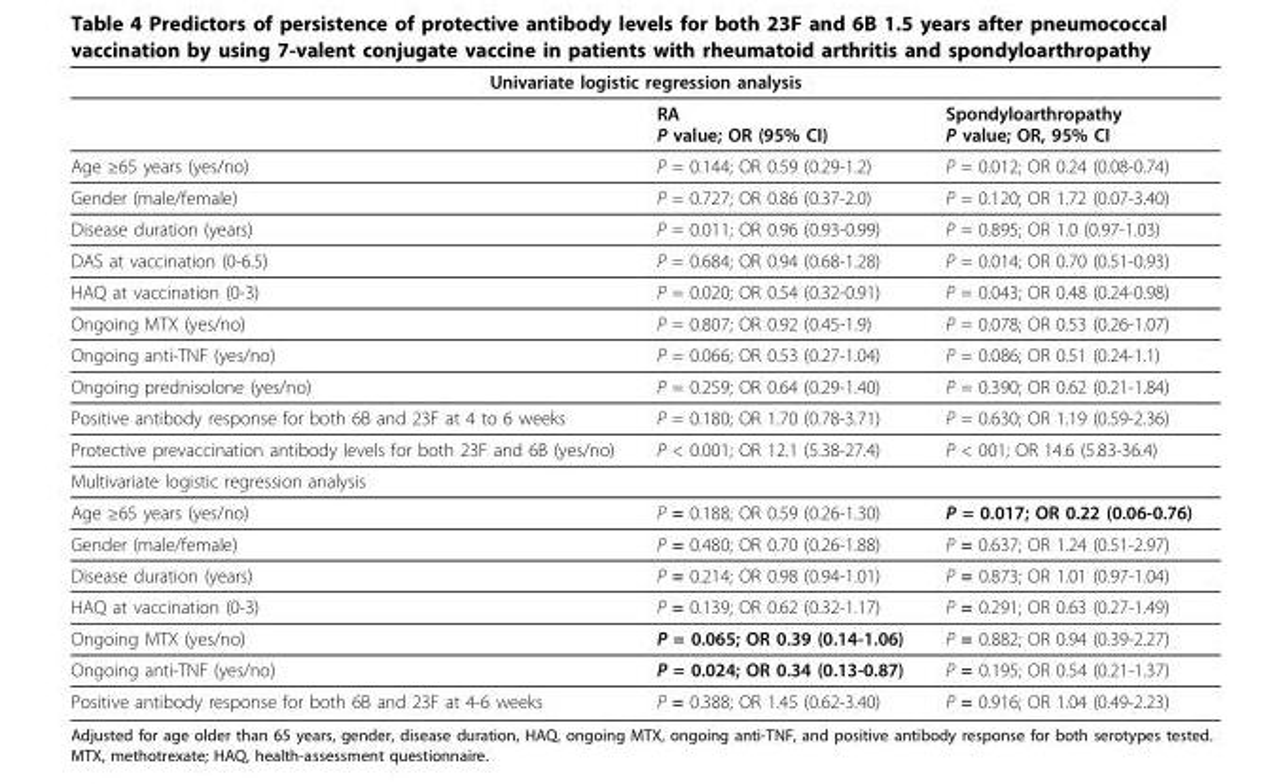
<table><thead><tr><td colspan="3">Univariate logistic regression analysis</td></tr><tr><td></td><td>RA P value; OR (95% CI)</td><td>Spondyloarthropathy P value; OR, 95% CI</td></tr></thead><tbody><tr><td>Age ≥65 years (yes/no)</td><td>P = 0.144; OR 0.59 (0.29-1.2)</td><td>P = 0.012; OR 0.24 (0.08-0.74)</td></tr><tr><td>Gender (male/female)</td><td>P = 0.727; OR 0.86 (0.37-2.0)</td><td>P = 0.120; OR 1.72 (0.07-3.40)</td></tr><tr><td>Disease duration (years)</td><td>P = 0.011; OR 0.96 (0.93-0.99)</td><td>P = 0.895; OR 1.0 (0.97-1.03)</td></tr><tr><td>DAS at vaccination (0-6.5)</td><td>P = 0.684; OR 0.94 (0.68-1.28)</td><td>P = 0.014; OR 0.70 (0.51-0.93)</td></tr><tr><td>HAQ at vaccination (0-3)</td><td>P = 0.020; OR 0.54 (0.32-0.91)</td><td>P = 0.043; OR 0.48 (0.24-0.98)</td></tr><tr><td>Ongoing MTX (yes/no)</td><td>P = 0.807; OR 0.92 (0.45-1.9)</td><td>P = 0.078; OR 0.53 (0.26-1.07)</td></tr><tr><td>Ongoing anti-TNF (yes/no)</td><td>P = 0.066; OR 0.53 (0.27-1.04)</td><td>P = 0.086; OR 0.51 (0.24-1.1)</td></tr><tr><td>Ongoing prednisolone (yes/no)</td><td>P = 0.259; OR 0.64 (0.29-1.40)</td><td>P = 0.390; OR 0.62 (0.21-1.84)</td></tr><tr><td>Positive antibody response for both 6B and 23F at 4 to 6 weeks</td><td>P = 0.180; OR 1.70 (0.78-3.71)</td><td>P = 0.630; OR 1.19 (0.59-2.36)</td></tr><tr><td>Protective prevaccination antibody levels for both 23F and 6B (yes/no)</td><td>P &lt; 0.001; OR 12.1 (5.38-27.4)</td><td>P &lt; 001; OR 14.6 (5.83-36.4)</td></tr><tr><td colspan="3">Multivariate logistic regression analysis</td></tr><tr><td>Age ≥65 years (yes/no)</td><td>P = 0.188; OR 0.59 (0.26-1.30)</td><td>P = 0.017; OR 0.22 (0.06-0.76)</td></tr><tr><td>Gender (male/female)</td><td>P = 0.480; OR 0.70 (0.26-1.88)</td><td>P = 0.637; OR 1.24 (0.51-2.97)</td></tr><tr><td>Disease duration (years)</td><td>P = 0.214; OR 0.98 (0.94-1.01)</td><td>P = 0.873; OR 1.01 (0.97-1.04)</td></tr><tr><td>HAQ at vaccination (0-3)</td><td>P = 0.139; OR 0.62 (0.32-1.17)</td><td>P = 0.291; OR 0.63 (0.27-1.49)</td></tr><tr><td>Ongoing MTX (yes/no)</td><td>P = 0.065; OR 0.39 (0.14-1.06)</td><td>P = 0.882; OR 0.94 (0.39-2.27)</td></tr><tr><td>Ongoing anti-TNF (yes/no)</td><td>P = 0.024; OR 0.34 (0.13-0.87)</td><td>P = 0.195; OR 0.54 (0.21-1.37)</td></tr><tr><td>Positive antibody response for both 6B and 23F at 4-6 weeks</td><td>P = 0.388; OR 1.45 (0.62-3.40)</td><td>P = 0.916; OR 1.04 (0.49-2.23)</td></tr></tbody></table>